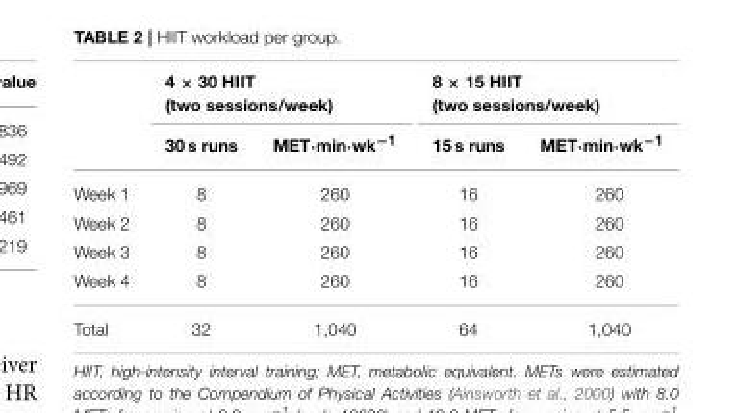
<table><thead><tr><td rowspan="2"></td><td colspan="2">4 × 30 HIIT (two sessions/week)</td><td colspan="2">8 × 15 HIIT (two sessions/week)</td></tr><tr><td>30 s runs</td><td>MET·min·wk<sup>−1</sup></td><td>15 s runs</td><td>MET·min·wk<sup>−1</sup></td></tr></thead><tbody><tr><td>Week 1</td><td>8</td><td>260</td><td>16</td><td>260</td></tr><tr><td>Week 2</td><td>8</td><td>260</td><td>16</td><td>260</td></tr><tr><td>Week 3</td><td>8</td><td>260</td><td>16</td><td>260</td></tr><tr><td>Week 4</td><td>8</td><td>260</td><td>16</td><td>260</td></tr><tr><td>Total</td><td>32</td><td>1,040</td><td>64</td><td>1,040</td></tr></tbody></table>